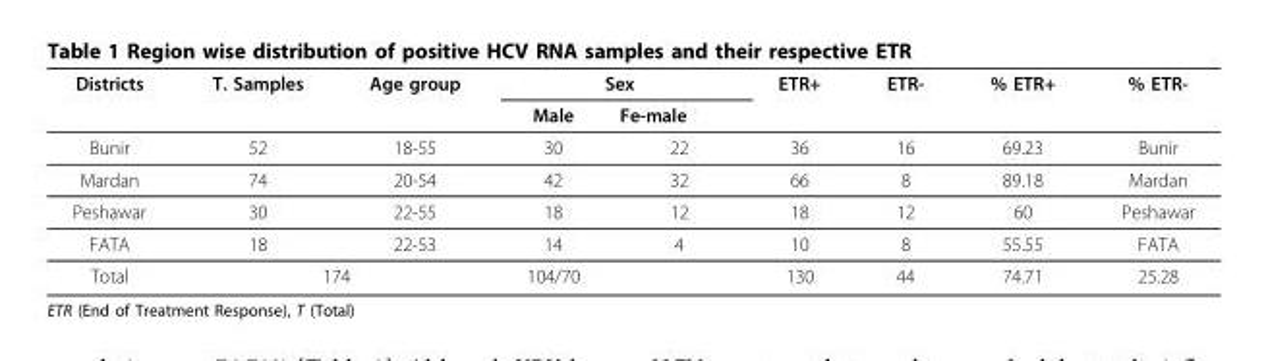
<table><thead><tr><td rowspan="2">Districts</td><td rowspan="2">T. Samples</td><td rowspan="2">Age group</td><td colspan="2">Sex</td><td rowspan="2">ETR+</td><td rowspan="2">ETR-</td><td rowspan="2">% ETR+</td><td rowspan="2">% ETR-</td></tr><tr><td>Male</td><td>Fe-male</td></tr></thead><tbody><tr><td>Bunir</td><td>52</td><td>18-55</td><td>30</td><td>22</td><td>36</td><td>16</td><td>69.23</td><td>Bunir</td></tr><tr><td>Mardan</td><td>74</td><td>20-54</td><td>42</td><td>32</td><td>66</td><td>8</td><td>89.18</td><td>Mardan</td></tr><tr><td>Peshawar</td><td>30</td><td>22-55</td><td>18</td><td>12</td><td>18</td><td>12</td><td>60</td><td>Peshawar</td></tr><tr><td>FATA</td><td>18</td><td>22-53</td><td>14</td><td>4</td><td>10</td><td>8</td><td>55.55</td><td>FATA</td></tr><tr><td>Total</td><td colspan="2">174</td><td>104/70</td><td></td><td>130</td><td>44</td><td>74.71</td><td>25.28</td></tr></tbody></table>